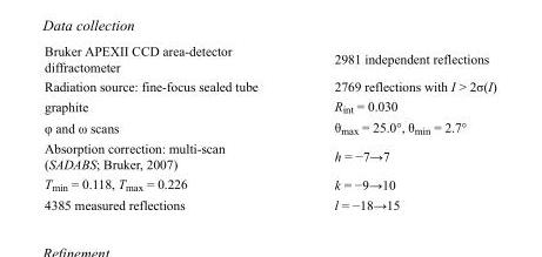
<table><tbody><tr><td>Bruker APEXII CCD area-detector diffractometer</td><td>2981 independent reflections</td></tr><tr><td>Radiation source: fine-focus sealed tube</td><td>2769 reflections with I &gt; 2σ(I)</td></tr><tr><td>graphite</td><td>R<sub>int</sub> = 0.030</td></tr><tr><td>φ and ω scans</td><td>θ<sub>max</sub> = 25.0°, θ<sub>min</sub> = 2.7°</td></tr><tr><td>Absorption correction: multi-scan (SADABS; Bruker, 2007)</td><td>h = −7→7</td></tr><tr><td>T<sub>min</sub> = 0.118, T<sub>max</sub> = 0.226</td><td>k = −9→10</td></tr><tr><td>4385 measured reflections</td><td>l = −18→15</td></tr></tbody></table>